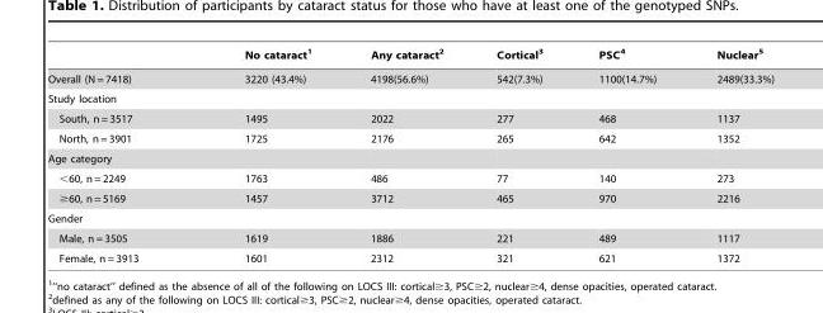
<table><thead><tr><td></td><td>No cataract<sup>1</sup></td><td>Any cataract<sup>2</sup></td><td>Cortical<sup>3</sup></td><td>PSC<sup>4</sup></td><td>Nuclear<sup>5</sup></td></tr></thead><tbody><tr><td>Overall (N = 7418)</td><td>3220 (43.4%)</td><td>4198(56.6%)</td><td>542(7.3%)</td><td>1100(14.7%)</td><td>2489(33.3%)</td></tr><tr><td colspan="6">Study location</td></tr><tr><td>South, n = 3517</td><td>1495</td><td>2022</td><td>277</td><td>468</td><td>1137</td></tr><tr><td>North, n = 3901</td><td>1725</td><td>2176</td><td>265</td><td>642</td><td>1352</td></tr><tr><td colspan="6">Age category</td></tr><tr><td>&lt;60, n = 2249</td><td>1763</td><td>486</td><td>77</td><td>140</td><td>273</td></tr><tr><td>≥60, n = 5169</td><td>1457</td><td>3712</td><td>465</td><td>970</td><td>2216</td></tr><tr><td colspan="6">Gender</td></tr><tr><td>Male, n = 3505</td><td>1619</td><td>1886</td><td>221</td><td>489</td><td>1117</td></tr><tr><td>Female, n = 3913</td><td>1601</td><td>2312</td><td>321</td><td>621</td><td>1372</td></tr></tbody></table>